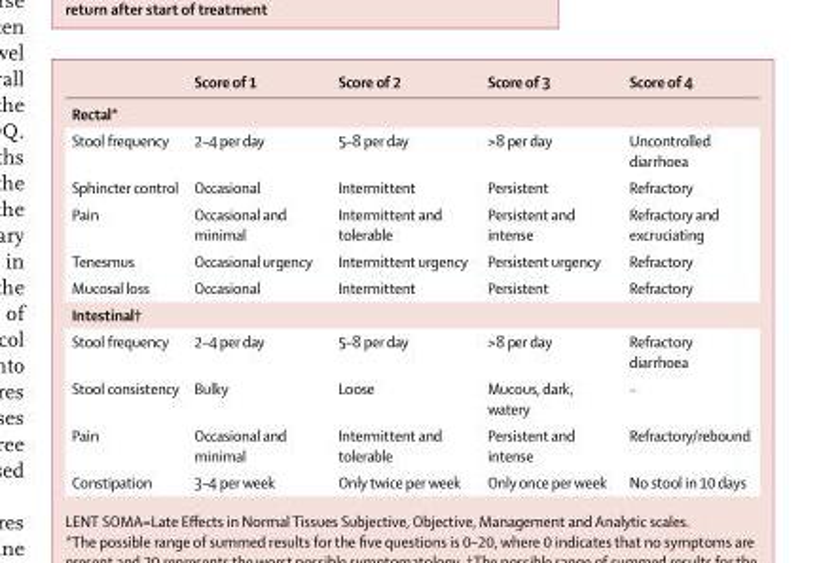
<table><thead><tr><td></td><td>Score of 1</td><td>Score of 2</td><td>Score of 3</td><td>Score of 4</td></tr></thead><tbody><tr><td colspan="5">Rectal*</td></tr><tr><td>Stool frequency</td><td>2–4 per day</td><td>5–8 per day</td><td>&gt;8 per day</td><td>Uncontrolled diarrhoea</td></tr><tr><td>Sphincter control</td><td>Occasional</td><td>Intermittent</td><td>Persistent</td><td>Refractory</td></tr><tr><td>Pain</td><td>Occasional and minimal</td><td>Intermittent and tolerable</td><td>Persistent and intense</td><td>Refractory and excruciating</td></tr><tr><td>Tenesmus</td><td>Occasional urgency</td><td>Intermittent urgency</td><td>Persistent urgency</td><td>Refractory</td></tr><tr><td>Mucosal loss</td><td>Occasional</td><td>Intermittent</td><td>Persistent</td><td>Refractory</td></tr><tr><td colspan="5">Intestinal†</td></tr><tr><td>Stool frequency</td><td>2–4 per day</td><td>5–8 per day</td><td>&gt;8 per day</td><td>Refractory diarrhoea</td></tr><tr><td>Stool consistency</td><td>Bulky</td><td>Loose</td><td>Mucous, dark, watery</td><td>··</td></tr><tr><td>Pain</td><td>Occasional and minimal</td><td>Intermittent and tolerable</td><td>Persistent and intense</td><td>Refractory/rebound</td></tr><tr><td>Constipation</td><td>3–4 per week</td><td>Only twice per week</td><td>Only once per week</td><td>No stool in 10 days</td></tr></tbody></table>